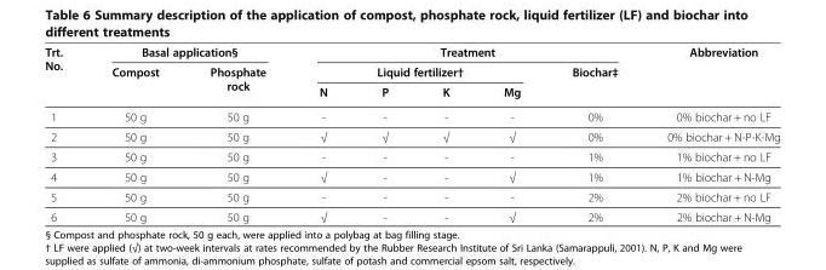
<table><thead><tr><td rowspan="3">Trt. No.</td><td colspan="2">Basal application§</td><td colspan="5">Treatment</td><td rowspan="3">Abbreviation</td></tr><tr><td rowspan="2">Compost</td><td rowspan="2">Phosphate rock</td><td colspan="4">Liquid fertilizer†</td><td rowspan="2">Biochar‡</td></tr><tr><td>N</td><td>P</td><td>K</td><td>Mg</td></tr></thead><tbody><tr><td>1</td><td>50 g</td><td>50 g</td><td>-</td><td>-</td><td>-</td><td>-</td><td>0%</td><td>0% biochar + no LF</td></tr><tr><td>2</td><td>50 g</td><td>50 g</td><td>√</td><td>√</td><td>√</td><td>√</td><td>0%</td><td>0% biochar + N-P-K-Mg</td></tr><tr><td>3</td><td>50 g</td><td>50 g</td><td>-</td><td>-</td><td>-</td><td>-</td><td>1%</td><td>1% biochar + no LF</td></tr><tr><td>4</td><td>50 g</td><td>50 g</td><td>√</td><td>-</td><td>-</td><td>√</td><td>1%</td><td>1% biochar + N-Mg</td></tr><tr><td>5</td><td>50 g</td><td>50 g</td><td>-</td><td>-</td><td>-</td><td>-</td><td>2%</td><td>2% biochar + no LF</td></tr><tr><td>6</td><td>50 g</td><td>50 g</td><td>√</td><td>-</td><td>-</td><td>√</td><td>2%</td><td>2% biochar + N-Mg</td></tr></tbody></table>